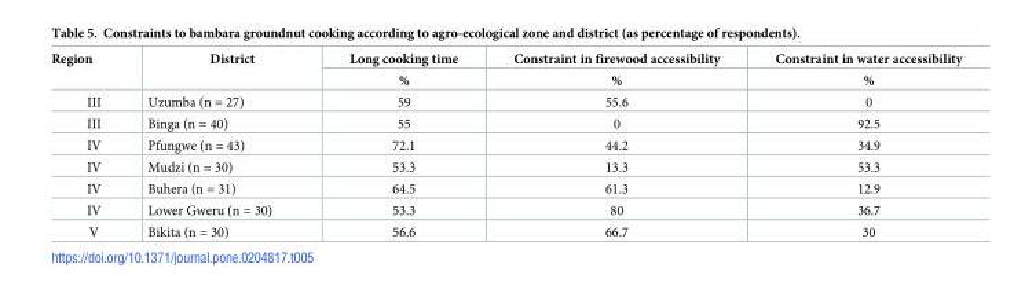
<table><thead><tr><td rowspan="2">Region</td><td rowspan="2">District</td><td rowspan="2">Long cooking time %</td><td rowspan="2">Constraint in firewood accessibility %</td><td rowspan="2">Constraint in water accessibility %</td></tr><tr></tr></thead><tbody><tr><td>III</td><td>Uzumba (n = 27)</td><td>59</td><td>55.6</td><td>0</td></tr><tr><td>III</td><td>Binga (n = 40)</td><td>55</td><td>0</td><td>92.5</td></tr><tr><td>IV</td><td>Pfungwe (n = 43)</td><td>72.1</td><td>44.2</td><td>34.9</td></tr><tr><td>IV</td><td>Mudzi (n = 30)</td><td>53.3</td><td>13.3</td><td>53.3</td></tr><tr><td>IV</td><td>Buhera (n = 31)</td><td>64.5</td><td>61.3</td><td>12.9</td></tr><tr><td>IV</td><td>Lower Gweru (n = 30)</td><td>53.3</td><td>80</td><td>36.7</td></tr><tr><td>V</td><td>Bikita (n = 30)</td><td>56.6</td><td>66.7</td><td>30</td></tr></tbody></table>